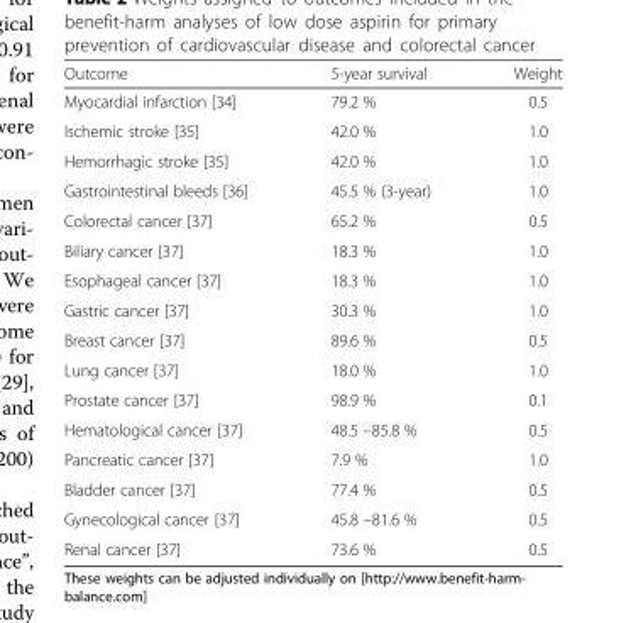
<table><thead><tr><td>Outcome</td><td>5-year survival</td><td>Weight</td></tr></thead><tbody><tr><td>Myocardial infarction [34]</td><td>79.2 %</td><td>0.5</td></tr><tr><td>Ischemic stroke [35]</td><td>42.0 %</td><td>1.0</td></tr><tr><td>Hemorrhagic stroke [35]</td><td>42.0 %</td><td>1.0</td></tr><tr><td>Gastrointestinal bleeds [36]</td><td>45.5 % (3-year)</td><td>1.0</td></tr><tr><td>Colorectal cancer [37]</td><td>65.2 %</td><td>0.5</td></tr><tr><td>Biliary cancer [37]</td><td>18.3 %</td><td>1.0</td></tr><tr><td>Esophageal cancer [37]</td><td>18.3 %</td><td>1.0</td></tr><tr><td>Gastric cancer [37]</td><td>30.3 %</td><td>1.0</td></tr><tr><td>Breast cancer [37]</td><td>89.6 %</td><td>0.5</td></tr><tr><td>Lung cancer [37]</td><td>18.0 %</td><td>1.0</td></tr><tr><td>Prostate cancer [37]</td><td>98.9 %</td><td>0.1</td></tr><tr><td>Hematological cancer [37]</td><td>48.5 –85.8 %</td><td>0.5</td></tr><tr><td>Pancreatic cancer [37]</td><td>7.9 %</td><td>1.0</td></tr><tr><td>Bladder cancer [37]</td><td>77.4 %</td><td>0.5</td></tr><tr><td>Gynecological cancer [37]</td><td>45.8 –81.6 %</td><td>0.5</td></tr><tr><td>Renal cancer [37]</td><td>73.6 %</td><td>0.5</td></tr></tbody></table>